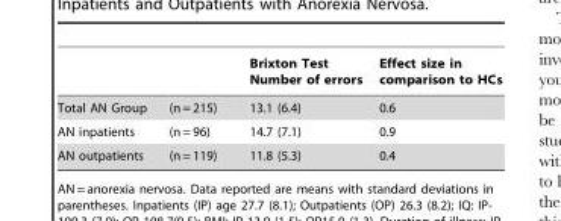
<table><thead><tr><td></td><td></td><td>Brixton Test Number of errors</td><td>Effect size in comparison to HCs</td></tr></thead><tbody><tr><td>Total AN Group</td><td>(n = 215)</td><td>13.1 (6.4)</td><td>0.6</td></tr><tr><td>AN inpatients</td><td>(n = 96)</td><td>14.7 (7.1)</td><td>0.9</td></tr><tr><td>AN outpatients</td><td>(n = 119)</td><td>11.8 (5.3)</td><td>0.4</td></tr></tbody></table>